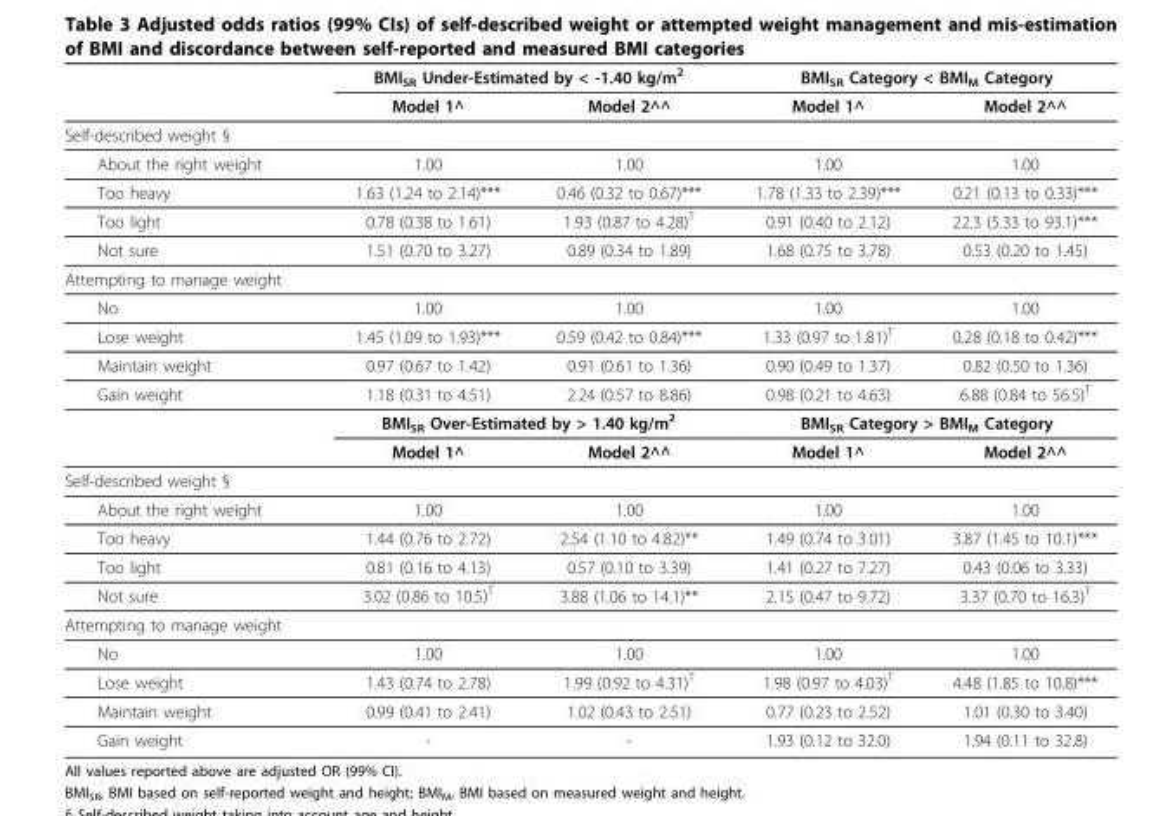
<table><thead><tr><td rowspan="2"></td><td colspan="2">BMI<sub>SR</sub> Under-Estimated by &lt; -1.40 kg/m<sup>2</sup></td><td colspan="2">BMI<sub>SR</sub> Category &lt; BMI<sub>M</sub> Category</td></tr><tr><td>Model 1^</td><td>Model 2^^</td><td>Model 1^</td><td>Model 2^^</td></tr></thead><tbody><tr><td colspan="5">Self-described weight §</td></tr><tr><td>About the right weight</td><td>1.00</td><td>1.00</td><td>1.00</td><td>1.00</td></tr><tr><td>Too heavy</td><td>1.63 (1.24 to 2.14)***</td><td>0.46 (0.32 to 0.67)***</td><td>1.78 (1.33 to 2.39)***</td><td>0.21 (0.13 to 0.33)***</td></tr><tr><td>Too light</td><td>0.78 (0.38 to 1.61)</td><td>1.93 (0.87 to 4.28)<sup>T</sup></td><td>0.91 (0.40 to 2.12)</td><td>22.3 (5.33 to 93.1)***</td></tr><tr><td>Not sure</td><td>1.51 (0.70 to 3.27)</td><td>0.89 (0.34 to 1.89)</td><td>1.68 (0.75 to 3.78)</td><td>0.53 (0.20 to 1.45)</td></tr><tr><td colspan="5">Attempting to manage weight</td></tr><tr><td>No</td><td>1.00</td><td>1.00</td><td>1.00</td><td>1.00</td></tr><tr><td>Lose weight</td><td>1.45 (1.09 to 1.93)***</td><td>0.59 (0.42 to 0.84)***</td><td>1.33 (0.97 to 1.81)<sup>T</sup></td><td>0.28 (0.18 to 0.42)***</td></tr><tr><td>Maintain weight</td><td>0.97 (0.67 to 1.42)</td><td>0.91 (0.61 to 1.36)</td><td>0.90 (0.49 to 1.37)</td><td>0.82 (0.50 to 1.36)</td></tr><tr><td rowspan="3">Gain weight</td><td>1.18 (0.31 to 4.51)</td><td>2.24 (0.57 to 8.86)</td><td>0.98 (0.21 to 4.63)</td><td>6.88 (0.84 to 56.5)<sup>T</sup></td></tr><tr><td colspan="2">BMI<sub>SR</sub> Over-Estimated by &gt; 1.40 kg/m<sup>2</sup></td><td colspan="2">BMI<sub>SR</sub> Category &gt; BMI<sub>M</sub> Category</td></tr><tr><td>Model 1^</td><td>Model 2^^</td><td>Model 1^</td><td>Model 2^^</td></tr><tr><td colspan="5">Self-described weight §</td></tr><tr><td>About the right weight</td><td>1.00</td><td>1.00</td><td>1.00</td><td>1.00</td></tr><tr><td>Too heavy</td><td>1.44 (0.76 to 2.72)</td><td>2.54 (1.10 to 4.82)**</td><td>1.49 (0.74 to 3.01)</td><td>3.87 (1.45 to 10.1)***</td></tr><tr><td>Too light</td><td>0.81 (0.16 to 4.13)</td><td>0.57 (0.10 to 3.39)</td><td>1.41 (0.27 to 7.27)</td><td>0.43 (0.06 to 3.33)</td></tr><tr><td>Not sure</td><td>3.02 (0.86 to 10.5)<sup>T</sup></td><td>3.88 (1.06 to 14.1)**</td><td>2.15 (0.47 to 9.72)</td><td>3.37 (0.70 to 16.3)<sup>T</sup></td></tr><tr><td colspan="5">Attempting to manage weight</td></tr><tr><td>No</td><td>1.00</td><td>1.00</td><td>1.00</td><td>1.00</td></tr><tr><td>Lose weight</td><td>1.43 (0.74 to 2.78)</td><td>1.99 (0.92 to 4.31)<sup>T</sup></td><td>1.98 (0.97 to 4.03)<sup>T</sup></td><td>4.48 (1.85 to 10.8)***</td></tr><tr><td>Maintain weight</td><td>0.99 (0.41 to 2.41)</td><td>1.02 (0.43 to 2.51)</td><td>0.77 (0.23 to 2.52)</td><td>1.01 (0.30 to 3.40)</td></tr><tr><td>Gain weight</td><td>-</td><td>-</td><td>1.93 (0.12 to 32.0)</td><td>1.94 (0.11 to 32.8)</td></tr></tbody></table>